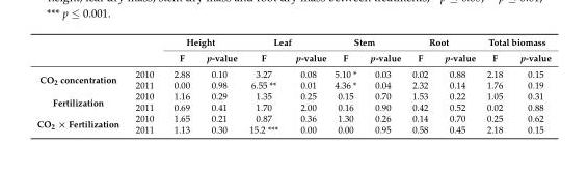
<table><thead><tr><td rowspan="2"></td><td rowspan="2"></td><td colspan="2">Height</td><td colspan="2">Leaf</td><td colspan="2">Stem</td><td colspan="2">Root</td><td colspan="2">Total biomass</td></tr><tr><td>F</td><td>p-value</td><td>F</td><td>p-value</td><td>F</td><td>p-value</td><td>F</td><td>p-value</td><td>F</td><td>p-value</td></tr></thead><tbody><tr><td rowspan="2">CO<sub>2</sub> concentration</td><td>2010</td><td>2.88</td><td>0.10</td><td>3.27</td><td>0.08</td><td>5.10 *</td><td>0.03</td><td>0.02</td><td>0.88</td><td>2.18</td><td>0.15</td></tr><tr><td>2011</td><td>0.00</td><td>0.98</td><td>6.55 **</td><td>0.01</td><td>4.36 *</td><td>0.04</td><td>2.32</td><td>0.14</td><td>1.76</td><td>0.19</td></tr><tr><td rowspan="2">Fertilization</td><td>2010</td><td>1.16</td><td>0.29</td><td>1.35</td><td>0.25</td><td>0.15</td><td>0.70</td><td>1.53</td><td>0.22</td><td>1.05</td><td>0.31</td></tr><tr><td>2011</td><td>0.69</td><td>0.41</td><td>1.70</td><td>2.00</td><td>0.16</td><td>0.90</td><td>0.42</td><td>0.52</td><td>0.02</td><td>0.88</td></tr><tr><td rowspan="2">CO<sub>2</sub> × Fertilization</td><td>2010</td><td>1.65</td><td>0.21</td><td>0.87</td><td>0.36</td><td>1.30</td><td>0.26</td><td>0.14</td><td>0.70</td><td>0.25</td><td>0.62</td></tr><tr><td>2011</td><td>1.13</td><td>0.30</td><td>15.2 ***</td><td>0.00</td><td>0.00</td><td>0.95</td><td>0.58</td><td>0.45</td><td>2.18</td><td>0.15</td></tr></tbody></table>